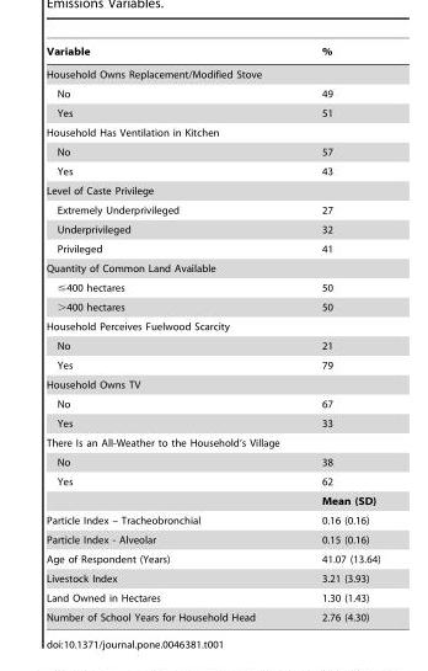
<table><thead><tr><td>Variable</td><td>%</td></tr></thead><tbody><tr><td colspan="2">Household Owns Replacement/Modified Stove</td></tr><tr><td>No</td><td>49</td></tr><tr><td>Yes</td><td>51</td></tr><tr><td colspan="2">Household Has Ventilation in Kitchen</td></tr><tr><td>No</td><td>57</td></tr><tr><td>Yes</td><td>43</td></tr><tr><td colspan="2">Level of Caste Privilege</td></tr><tr><td>Extremely Underprivileged</td><td>27</td></tr><tr><td>Underprivileged</td><td>32</td></tr><tr><td>Privileged</td><td>41</td></tr><tr><td colspan="2">Quantity of Common Land Available</td></tr><tr><td>≤400 hectares</td><td>50</td></tr><tr><td>&gt;400 hectares</td><td>50</td></tr><tr><td colspan="2">Household Perceives Fuelwood Scarcity</td></tr><tr><td>No</td><td>21</td></tr><tr><td>Yes</td><td>79</td></tr><tr><td colspan="2">Household Owns TV</td></tr><tr><td>No</td><td>67</td></tr><tr><td>Yes</td><td>33</td></tr><tr><td colspan="2">There Is an All-Weather to the Household’s Village</td></tr><tr><td>No</td><td>38</td></tr><tr><td rowspan="2">Yes</td><td>62</td></tr><tr><td>Mean (SD)</td></tr><tr><td>Particle Index – Tracheobronchial</td><td>0.16 (0.16)</td></tr><tr><td>Particle Index - Alveolar</td><td>0.15 (0.16)</td></tr><tr><td>Age of Respondent (Years)</td><td>41.07 (13.64)</td></tr><tr><td>Livestock Index</td><td>3.21 (3.93)</td></tr><tr><td>Land Owned in Hectares</td><td>1.30 (1.43)</td></tr><tr><td>Number of School Years for Household Head</td><td>2.76 (4.30)</td></tr></tbody></table>